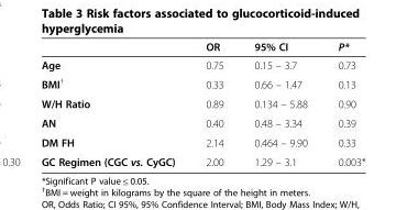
<table><thead><tr><td></td><td>OR</td><td>95% CI</td><td>P*</td></tr></thead><tbody><tr><td>Age</td><td>0.75</td><td>0.15 – 3.7</td><td>0.73</td></tr><tr><td>BMI<sup>†</sup></td><td>0.33</td><td>0.66 – 1.47</td><td>0.13</td></tr><tr><td>W/H Ratio</td><td>0.89</td><td>0.134 – 5.88</td><td>0.90</td></tr><tr><td>AN</td><td>0.40</td><td>0.48 – 3.34</td><td>0.39</td></tr><tr><td>DM FH</td><td>2.14</td><td>0.464 – 9.90</td><td>0.33</td></tr><tr><td>GC Regimen (CGC vs. CyGC)</td><td>2.00</td><td>1.29 – 3.1</td><td>0.003*</td></tr></tbody></table>